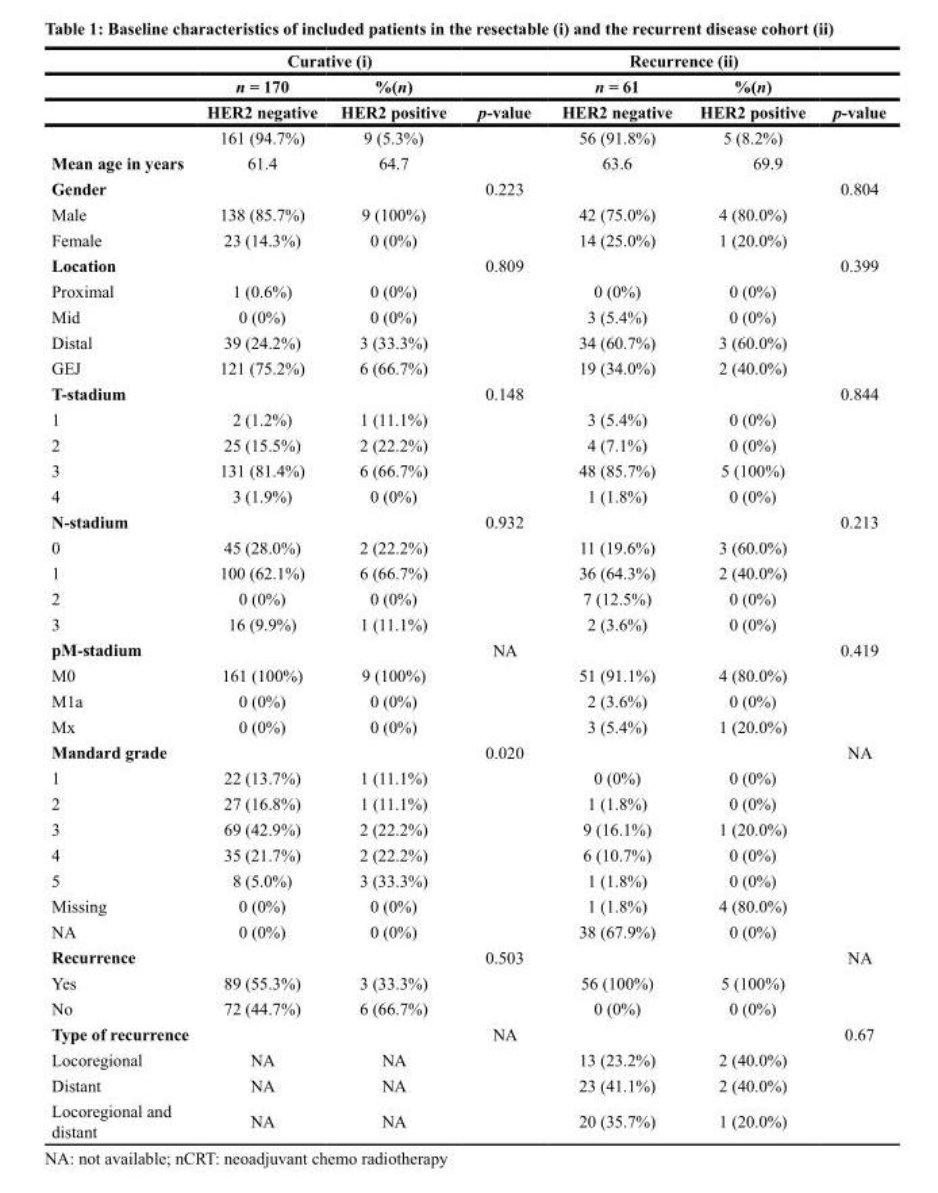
<table><thead><tr><td rowspan="3"></td><td colspan="2">Curative (i)</td><td rowspan="3">p-value</td><td colspan="2">Recurrence (ii)</td><td rowspan="3">p-value</td></tr><tr><td rowspan="2">n = 170 HER2 negative</td><td rowspan="2">%(n) HER2 positive</td><td rowspan="2">n = 61 HER2 negative</td><td rowspan="2">%(n) HER2 positive</td></tr><tr></tr></thead><tbody><tr><td></td><td>161 (94.7%)</td><td>9 (5.3%)</td><td></td><td>56 (91.8%)</td><td>5 (8.2%)</td><td></td></tr><tr><td>Mean age in years</td><td>61.4</td><td>64.7</td><td></td><td>63.6</td><td>69.9</td><td></td></tr><tr><td>Gender</td><td></td><td></td><td>0.223</td><td></td><td></td><td>0.804</td></tr><tr><td>Male</td><td>138 (85.7%)</td><td>9 (100%)</td><td></td><td>42 (75.0%)</td><td>4 (80.0%)</td><td></td></tr><tr><td>Female</td><td>23 (14.3%)</td><td>0 (0%)</td><td></td><td>14 (25.0%)</td><td>1 (20.0%)</td><td></td></tr><tr><td>Location</td><td></td><td></td><td>0.809</td><td></td><td></td><td>0.399</td></tr><tr><td>Proximal</td><td>1 (0.6%)</td><td>0 (0%)</td><td></td><td>0 (0%)</td><td>0 (0%)</td><td></td></tr><tr><td>Mid</td><td>0 (0%)</td><td>0 (0%)</td><td></td><td>3 (5.4%)</td><td>0 (0%)</td><td></td></tr><tr><td>Distal</td><td>39 (24.2%)</td><td>3 (33.3%)</td><td></td><td>34 (60.7%)</td><td>3 (60.0%)</td><td></td></tr><tr><td>GEJ</td><td>121 (75.2%)</td><td>6 (66.7%)</td><td></td><td>19 (34.0%)</td><td>2 (40.0%)</td><td></td></tr><tr><td>T-stadium</td><td></td><td></td><td>0.148</td><td></td><td></td><td>0.844</td></tr><tr><td>1</td><td>2 (1.2%)</td><td>1 (11.1%)</td><td></td><td>3 (5.4%)</td><td>0 (0%)</td><td></td></tr><tr><td>2</td><td>25 (15.5%)</td><td>2 (22.2%)</td><td></td><td>4 (7.1%)</td><td>0 (0%)</td><td></td></tr><tr><td>3</td><td>131 (81.4%)</td><td>6 (66.7%)</td><td></td><td>48 (85.7%)</td><td>5 (100%)</td><td></td></tr><tr><td>4</td><td>3 (1.9%)</td><td>0 (0%)</td><td></td><td>1 (1.8%)</td><td>0 (0%)</td><td></td></tr><tr><td>N-stadium</td><td></td><td></td><td>0.932</td><td></td><td></td><td>0.213</td></tr><tr><td>0</td><td>45 (28.0%)</td><td>2 (22.2%)</td><td></td><td>11 (19.6%)</td><td>3 (60.0%)</td><td></td></tr><tr><td>1</td><td>100 (62.1%)</td><td>6 (66.7%)</td><td></td><td>36 (64.3%)</td><td>2 (40.0%)</td><td></td></tr><tr><td>2</td><td>0 (0%)</td><td>0 (0%)</td><td></td><td>7 (12.5%)</td><td>0 (0%)</td><td></td></tr><tr><td>3</td><td>16 (9.9%)</td><td>1 (11.1%)</td><td></td><td>2 (3.6%)</td><td>0 (0%)</td><td></td></tr><tr><td>pM-stadium</td><td></td><td></td><td>NA</td><td></td><td></td><td>0.419</td></tr><tr><td>M0</td><td>161 (100%)</td><td>9 (100%)</td><td></td><td>51 (91.1%)</td><td>4 (80.0%)</td><td></td></tr><tr><td>M1a</td><td>0 (0%)</td><td>0 (0%)</td><td></td><td>2 (3.6%)</td><td>0 (0%)</td><td></td></tr><tr><td>Mx</td><td>0 (0%)</td><td>0 (0%)</td><td></td><td>3 (5.4%)</td><td>1 (20.0%)</td><td></td></tr><tr><td>Mandard grade</td><td></td><td></td><td>0.020</td><td></td><td></td><td>NA</td></tr><tr><td>1</td><td>22 (13.7%)</td><td>1 (11.1%)</td><td></td><td>0 (0%)</td><td>0 (0%)</td><td></td></tr><tr><td>2</td><td>27 (16.8%)</td><td>1 (11.1%)</td><td></td><td>1 (1.8%)</td><td>0 (0%)</td><td></td></tr><tr><td>3</td><td>69 (42.9%)</td><td>2 (22.2%)</td><td></td><td>9 (16.1%)</td><td>1 (20.0%)</td><td></td></tr><tr><td>4</td><td>35 (21.7%)</td><td>2 (22.2%)</td><td></td><td>6 (10.7%)</td><td>0 (0%)</td><td></td></tr><tr><td>5</td><td>8 (5.0%)</td><td>3 (33.3%)</td><td></td><td>1 (1.8%)</td><td>0 (0%)</td><td></td></tr><tr><td>Missing</td><td>0 (0%)</td><td>0 (0%)</td><td></td><td>1 (1.8%)</td><td>4 (80.0%)</td><td></td></tr><tr><td>NA</td><td>0 (0%)</td><td>0 (0%)</td><td></td><td>38 (67.9%)</td><td>0 (0%)</td><td></td></tr><tr><td>Recurrence</td><td></td><td></td><td>0.503</td><td></td><td></td><td>NA</td></tr><tr><td>Yes</td><td>89 (55.3%)</td><td>3 (33.3%)</td><td></td><td>56 (100%)</td><td>5 (100%)</td><td></td></tr><tr><td>No</td><td>72 (44.7%)</td><td>6 (66.7%)</td><td></td><td>0 (0%)</td><td>0 (0%)</td><td></td></tr><tr><td>Type of recurrence</td><td></td><td></td><td>NA</td><td></td><td></td><td>0.67</td></tr><tr><td>Locoregional</td><td>NA</td><td>NA</td><td></td><td>13 (23.2%)</td><td>2 (40.0%)</td><td></td></tr><tr><td>Distant</td><td>NA</td><td>NA</td><td></td><td>23 (41.1%)</td><td>2 (40.0%)</td><td></td></tr><tr><td>Locoregional and distant</td><td>NA</td><td>NA</td><td></td><td>20 (35.7%)</td><td>1 (20.0%)</td><td></td></tr></tbody></table>